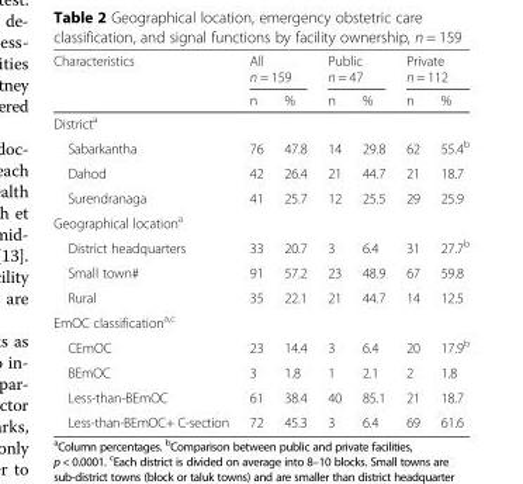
<table><thead><tr><td rowspan="3">Characteristics</td><td rowspan="2" colspan="2">All n = 159</td><td rowspan="2" colspan="2">Public n = 47</td><td rowspan="2" colspan="2">Private n = 112</td></tr><tr></tr><tr><td>n</td><td>%</td><td>n</td><td>%</td><td>n</td><td>%</td></tr></thead><tbody><tr><td colspan="7">District<sup>a</sup></td></tr><tr><td>Sabarkantha</td><td>76</td><td>47.8</td><td>14</td><td>29.8</td><td>62</td><td>55.4<sup>b</sup></td></tr><tr><td>Dahod</td><td>42</td><td>26.4</td><td>21</td><td>44.7</td><td>21</td><td>18.7</td></tr><tr><td>Surendranaga</td><td>41</td><td>25.7</td><td>12</td><td>25.5</td><td>29</td><td>25.9</td></tr><tr><td colspan="7">Geographical location<sup>a</sup></td></tr><tr><td>District headquarters</td><td>33</td><td>20.7</td><td>3</td><td>6.4</td><td>31</td><td>27.7<sup>b</sup></td></tr><tr><td>Small town#</td><td>91</td><td>57.2</td><td>23</td><td>48.9</td><td>67</td><td>59.8</td></tr><tr><td>Rural</td><td>35</td><td>22.1</td><td>21</td><td>44.7</td><td>14</td><td>12.5</td></tr><tr><td colspan="7">EmOC classification<sup>a,c</sup></td></tr><tr><td>CEmOC</td><td>23</td><td>14.4</td><td>3</td><td>6.4</td><td>20</td><td>17.9<sup>b</sup></td></tr><tr><td>BEmOC</td><td>3</td><td>1.8</td><td>1</td><td>2.1</td><td>2</td><td>1.8</td></tr><tr><td>Less-than-BEmOC</td><td>61</td><td>38.4</td><td>40</td><td>85.1</td><td>21</td><td>18.7</td></tr><tr><td>Less-than-BEmOC+ C-section</td><td>72</td><td>45.3</td><td>3</td><td>6.4</td><td>69</td><td>61.6</td></tr></tbody></table>